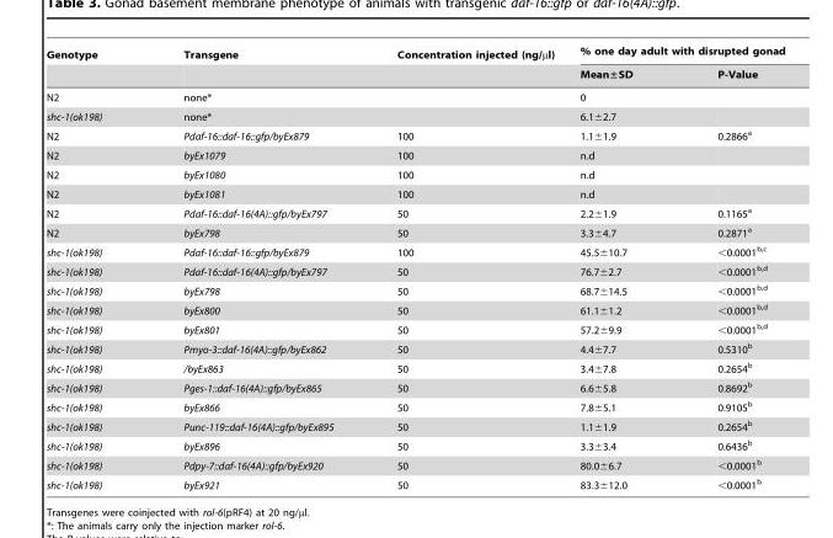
<table><thead><tr><td rowspan="2">Genotype</td><td rowspan="2">Transgene</td><td rowspan="2">Concentration injected (ng/µl)</td><td colspan="2">% one day adult with disrupted gonad</td></tr><tr><td>Mean±SD</td><td>P-Value</td></tr></thead><tbody><tr><td>N2</td><td>none*</td><td></td><td>0</td><td></td></tr><tr><td>shc-1(ok198)</td><td>none*</td><td></td><td>6.1±2.7</td><td></td></tr><tr><td>N2</td><td>Pdaf-16::daf-16::gfp/byEx879</td><td>100</td><td>1.1±1.9</td><td>0.2866<sup>a</sup></td></tr><tr><td>N2</td><td>byEx1079</td><td>100</td><td>n.d</td><td></td></tr><tr><td>N2</td><td>byEx1080</td><td>100</td><td>n.d</td><td></td></tr><tr><td>N2</td><td>byEx1081</td><td>100</td><td>n.d</td><td></td></tr><tr><td>N2</td><td>Pdaf-16::daf-16(4A)::gfp/byEx797</td><td>50</td><td>2.2±1.9</td><td>0.1165<sup>a</sup></td></tr><tr><td>N2</td><td>byEx798</td><td>50</td><td>3.3±4.7</td><td>0.2871<sup>a</sup></td></tr><tr><td>shc-1(ok198)</td><td>Pdaf-16::daf-16::gfp/byEx879</td><td>100</td><td>45.5±10.7</td><td>&lt;0.0001<sup>b,</sup>c</td></tr><tr><td>shc-1(ok198)</td><td>Pdaf-16::daf-16(4A)::gfp/byEx797</td><td>50</td><td>76.7±2.7</td><td>&lt;0.0001<sup>b,</sup>d</td></tr><tr><td>shc-1(ok198)</td><td>byEx798</td><td>50</td><td>68.7±14.5</td><td>&lt;0.0001<sup>b,</sup>d</td></tr><tr><td>shc-1(ok198)</td><td>byEx800</td><td>50</td><td>61.1±1.2</td><td>&lt;0.0001<sup>b,</sup>d</td></tr><tr><td>shc-1(ok198)</td><td>byEx801</td><td>50</td><td>57.2±9.9</td><td>&lt;0.0001<sup>b,</sup>d</td></tr><tr><td>shc-1(ok198)</td><td>Pmyo-3::daf-16(4A)::gfp/byEx862</td><td>50</td><td>4.4±7.7</td><td>0.5310<sup>b</sup></td></tr><tr><td>shc-1(ok198)</td><td>/byEx863</td><td>50</td><td>3.4±7.8</td><td>0.2654<sup>b</sup></td></tr><tr><td>shc-1(ok198)</td><td>Pges-1::daf-16(4A)::gfp/byEx865</td><td>50</td><td>6.6±5.8</td><td>0.8692<sup>b</sup></td></tr><tr><td>shc-1(ok198)</td><td>byEx866</td><td>50</td><td>7.8±5.1</td><td>0.9105<sup>b</sup></td></tr><tr><td>shc-1(ok198)</td><td>Punc-119::daf-16(4A)::gfp/byEx895</td><td>50</td><td>1.1±1.9</td><td>0.2654<sup>b</sup></td></tr><tr><td>shc-1(ok198)</td><td>byEx896</td><td>50</td><td>3.3±3.4</td><td>0.6436<sup>b</sup></td></tr><tr><td>shc-1(ok198)</td><td>Pdpy-7::daf-16(4A)::gfp/byEx920</td><td>50</td><td>80.0±6.7</td><td>&lt;0.0001<sup>b</sup></td></tr><tr><td>shc-1(ok198)</td><td>byEx921</td><td>50</td><td>83.3±12.0</td><td>&lt;0.0001<sup>b</sup></td></tr></tbody></table>